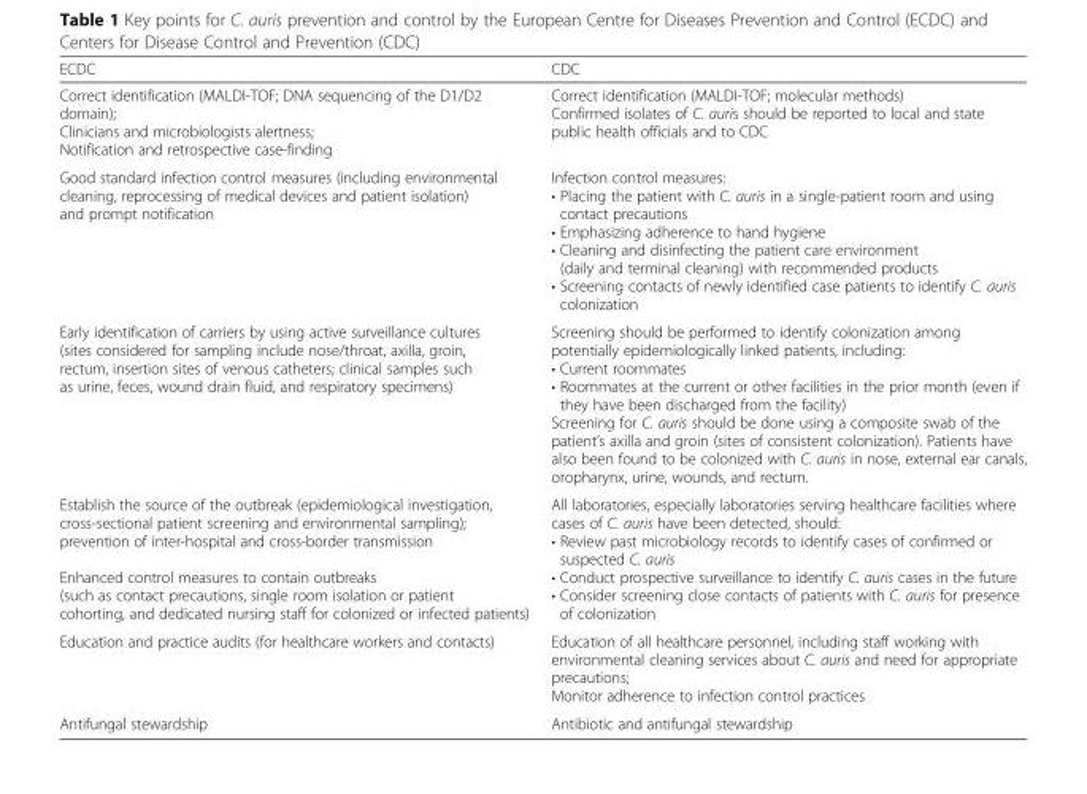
<table><thead><tr><td>ECDC</td><td>CDC</td></tr></thead><tbody><tr><td>Correct identification (MALDI-TOF; DNA sequencing of the D1/D2 domain); Clinicians and microbiologists alertness; Notification and retrospective case-finding</td><td>Correct identification (MALDI-TOF; molecular methods) Confirmed isolates of C. auris should be reported to local and state public health officials and to CDC</td></tr><tr><td>Good standard infection control measures (including environmental cleaning, reprocessing of medical devices and patient isolation) and prompt notification</td><td>Infection control measures: • Placing the patient with C. auris in a single-patient room and using contact precautions • Emphasizing adherence to hand hygiene • Cleaning and disinfecting the patient care environment (daily and terminal cleaning) with recommended products • Screening contacts of newly identified case patients to identify C. auris colonization</td></tr><tr><td>Early identification of carriers by using active surveillance cultures (sites considered for sampling include nose/throat, axilla, groin, rectum, insertion sites of venous catheters; clinical samples such as urine, feces, wound drain fluid, and respiratory specimens)</td><td>Screening should be performed to identify colonization among potentially epidemiologically linked patients, including: • Current roommates • Roommates at the current or other facilities in the prior month (even if they have been discharged from the facility) Screening for C. auris should be done using a composite swab of the patient’s axilla and groin (sites of consistent colonization). Patients have also been found to be colonized with C. auris in nose, external ear canals, oropharynx, urine, wounds, and rectum.</td></tr><tr><td>Establish the source of the outbreak (epidemiological investigation, cross-sectional patient screening and environmental sampling); prevention of inter-hospital and cross-border transmission Enhanced control measures to contain outbreaks (such as contact precautions, single room isolation or patient cohorting, and dedicated nursing staff for colonized or infected patients)</td><td>All laboratories, especially laboratories serving healthcare facilities where cases of C. auris have been detected, should: • Review past microbiology records to identify cases of confirmed or suspected C. auris • Conduct prospective surveillance to identify C. auris cases in the future • Consider screening close contacts of patients with C. auris for presence of colonization</td></tr><tr><td>Education and practice audits (for healthcare workers and contacts)</td><td>Education of all healthcare personnel, including staff working with environmental cleaning services about C. auris and need for appropriate precautions; Monitor adherence to infection control practices</td></tr><tr><td>Antifungal stewardship</td><td>Antibiotic and antifungal stewardship</td></tr></tbody></table>